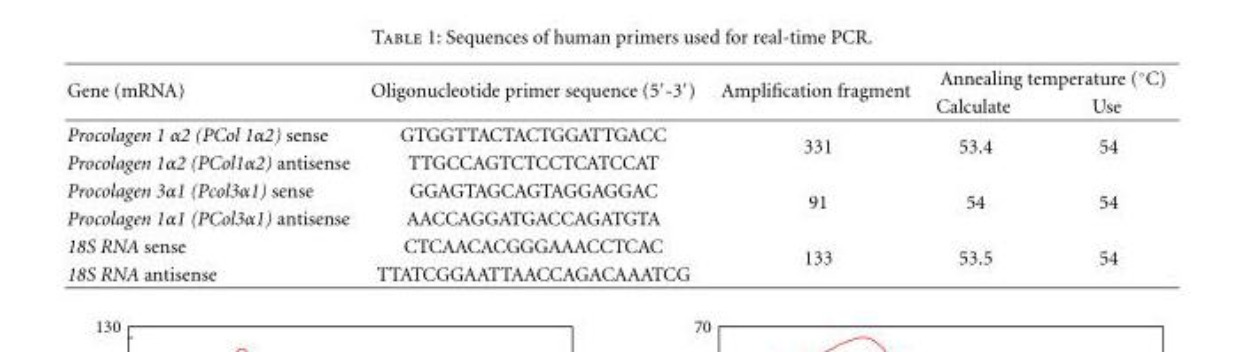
<table><thead><tr><td rowspan="2">Gene (mRNA)</td><td rowspan="2">Oligonucleotide primer sequence (5′-3′)</td><td rowspan="2">Amplification fragment</td><td colspan="2">Annealing temperature (◦C)</td></tr><tr><td>Calculate</td><td>Use</td></tr></thead><tbody><tr><td>Procolagen 1 α2 (PCol 1α2) sense</td><td>GTGGTTACTACTGGATTGACC</td><td rowspan="2">331</td><td rowspan="2">53.4</td><td rowspan="2">54</td></tr><tr><td>Procolagen 1α2 (PCol1α2) antisense</td><td>TTGCCAGTCTCCTCATCCAT</td></tr><tr><td>Procolagen 3α1 (Pcol3α1) sense</td><td>GGAGTAGCAGTAGGAGGAC</td><td rowspan="2">91</td><td rowspan="2">54</td><td rowspan="2">54</td></tr><tr><td>Procolagen 1α1 (PCol3α1) antisense</td><td>AACCAGGATGACCAGATGTA</td></tr><tr><td>18S RNA sense</td><td>CTCAACACGGGAAACCTCAC</td><td rowspan="2">133</td><td rowspan="2">53.5</td><td rowspan="2">54</td></tr><tr><td>18S RNA antisense</td><td>TTATCGGAATTAACCAGACAAATCG</td></tr></tbody></table>